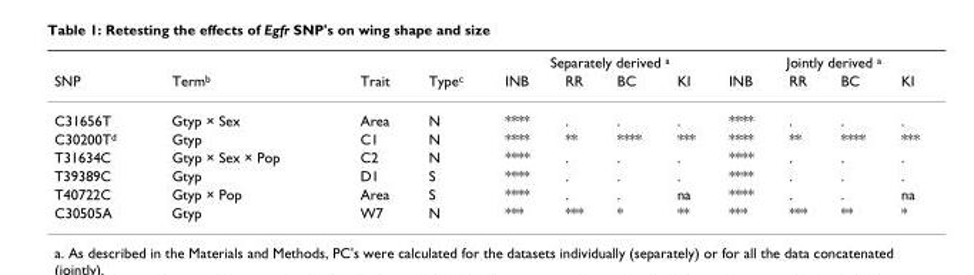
<table><thead><tr><td rowspan="2">SNP</td><td rowspan="2">Term<sup>b</sup></td><td rowspan="2">Trait</td><td rowspan="2">Type<sup>c</sup></td><td colspan="4">Separately derived <sup>a</sup></td><td colspan="4">Jointly derived <sup>a</sup></td></tr><tr><td>INB</td><td>RR</td><td>BC</td><td>KI</td><td>INB</td><td>RR</td><td>BC</td><td>KI</td></tr></thead><tbody><tr><td>C31656T</td><td>Gtyp × Sex</td><td>Area</td><td>N</td><td>****</td><td>.</td><td>.</td><td>.</td><td>****</td><td>.</td><td>.</td><td>.</td></tr><tr><td>C30200T<sup>d</sup></td><td>Gtyp</td><td>C1</td><td>N</td><td>****</td><td>**</td><td>****</td><td>***</td><td>****</td><td>**</td><td>****</td><td>***</td></tr><tr><td>T31634C</td><td>Gtyp × Sex × Pop</td><td>C2</td><td>N</td><td>****</td><td>.</td><td>.</td><td>.</td><td>****</td><td>.</td><td>.</td><td>.</td></tr><tr><td>T39389C</td><td>Gtyp</td><td>D1</td><td>S</td><td>****</td><td>.</td><td>.</td><td>.</td><td>****</td><td>.</td><td>.</td><td>.</td></tr><tr><td>T40722C</td><td>Gtyp × Pop</td><td>Area</td><td>S</td><td>****</td><td>.</td><td>.</td><td>na</td><td>****</td><td>.</td><td>.</td><td>na</td></tr><tr><td>C30505A</td><td>Gtyp</td><td>W7</td><td>N</td><td>***</td><td>***</td><td>*</td><td>**</td><td>***</td><td>***</td><td>**</td><td>*</td></tr></tbody></table>